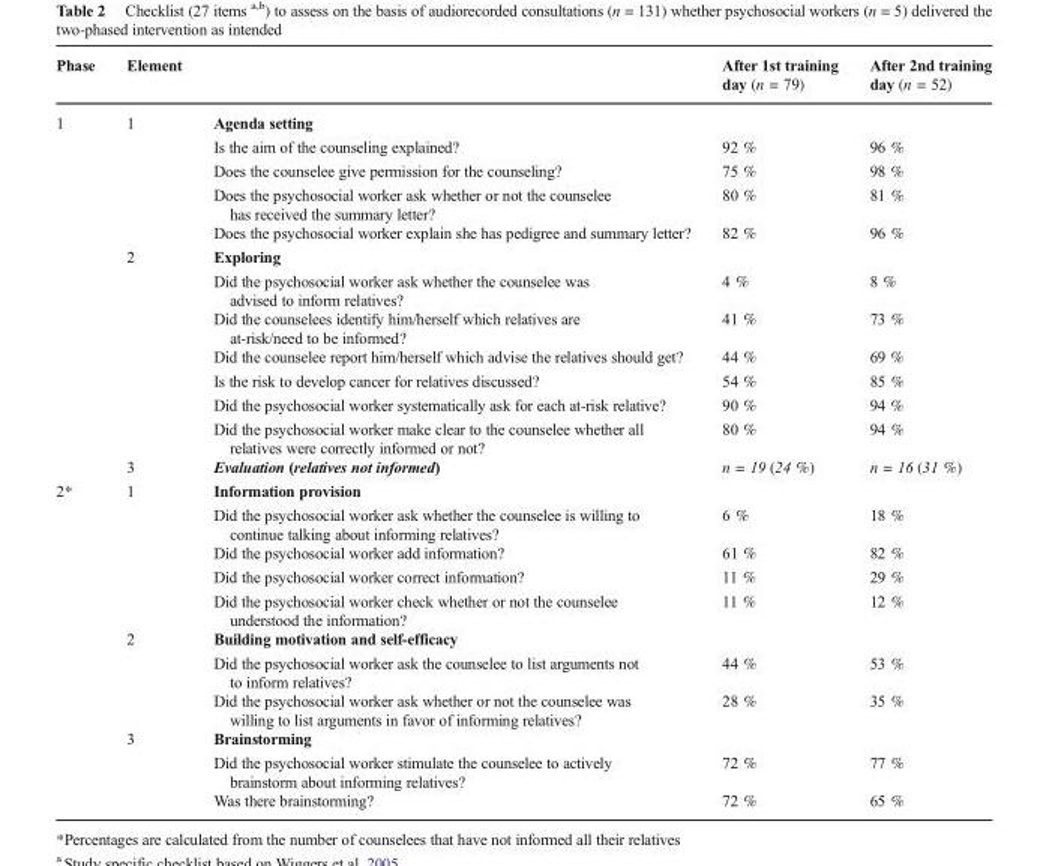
<table><thead><tr><td>Phase</td><td>Element</td><td></td><td>After 1st training day (n = 79)</td><td>After 2nd training day (n = 52)</td></tr></thead><tbody><tr><td rowspan="13">1</td><td>1</td><td>Agenda setting</td><td></td><td></td></tr><tr><td></td><td>Is the aim of the counseling explained?</td><td>92 %</td><td>96 %</td></tr><tr><td></td><td>Does the counselee give permission for the counseling?</td><td>75 %</td><td>98 %</td></tr><tr><td></td><td>Does the psychosocial worker ask whether or not the counselee has received the summary letter?</td><td>80 %</td><td>81 %</td></tr><tr><td></td><td>Does the psychosocial worker explain she has pedigree and summary letter?</td><td>82 %</td><td>96 %</td></tr><tr><td>2</td><td colspan="3">Exploring</td></tr><tr><td></td><td>Did the psychosocial worker ask whether the counselee was advised to inform relatives?</td><td>4 %</td><td>8 %</td></tr><tr><td></td><td>Did the counselees identify him/herself which relatives are at-risk/need to be informed?</td><td>41 %</td><td>73 %</td></tr><tr><td></td><td>Did the counselee report him/herself which advise the relatives should get?</td><td>44 %</td><td>69 %</td></tr><tr><td></td><td>Is the risk to develop cancer for relatives discussed?</td><td>54 %</td><td>85 %</td></tr><tr><td></td><td>Did the psychosocial worker systematically ask for each at-risk relative?</td><td>90 %</td><td>94 %</td></tr><tr><td></td><td>Did the psychosocial worker make clear to the counselee whether all relatives were correctly informed or not?</td><td>80 %</td><td>94 %</td></tr><tr><td>3</td><td>Evaluation (relatives not informed)</td><td>n = 19 (24 %)</td><td>n = 16 (31 %)</td></tr><tr><td rowspan="11">2*</td><td>1</td><td colspan="3">Information provision</td></tr><tr><td></td><td>Did the psychosocial worker ask whether the counselee is willing to continue talking about informing relatives?</td><td>6 %</td><td>18 %</td></tr><tr><td></td><td>Did the psychosocial worker add information?</td><td>61 %</td><td>82 %</td></tr><tr><td></td><td>Did the psychosocial worker correct information?</td><td>11 %</td><td>29 %</td></tr><tr><td></td><td>Did the psychosocial worker check whether or not the counselee understood the information?</td><td>11 %</td><td>12 %</td></tr><tr><td>2</td><td colspan="3">Building motivation and self-efficacy</td></tr><tr><td></td><td>Did the psychosocial worker ask the counselee to list arguments not to inform relatives?</td><td>44 %</td><td>53 %</td></tr><tr><td></td><td>Did the psychosocial worker ask whether or not the counselee was willing to list arguments in favor of informing relatives?</td><td>28 %</td><td>35 %</td></tr><tr><td>3</td><td colspan="3">Brainstorming</td></tr><tr><td></td><td>Did the psychosocial worker stimulate the counselee to actively brainstorm about informing relatives?</td><td>72 %</td><td>77 %</td></tr><tr><td></td><td>Was there brainstorming?</td><td>72 %</td><td>65 %</td></tr></tbody></table>